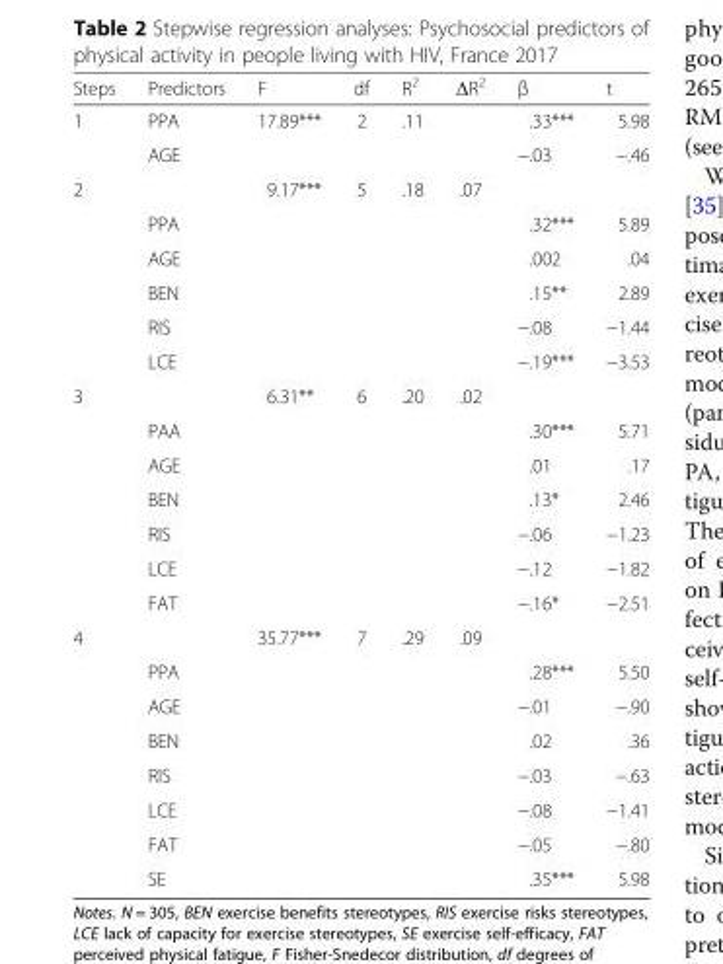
<table><thead><tr><td>Steps</td><td>Predictors</td><td>F</td><td>df</td><td>R<sup>2</sup></td><td>ΔR<sup>2</sup></td><td>β</td><td>t</td></tr></thead><tbody><tr><td rowspan="2">1</td><td>PPA</td><td rowspan="2">17.89***</td><td rowspan="2">2</td><td rowspan="2">.11</td><td rowspan="2"></td><td>.33***</td><td>5.98</td></tr><tr><td>AGE</td><td>−.03</td><td>−.46</td></tr><tr><td rowspan="6">2</td><td></td><td>9.17***</td><td>5</td><td>.18</td><td>.07</td><td></td><td></td></tr><tr><td>PPA</td><td></td><td></td><td></td><td></td><td>.32***</td><td>5.89</td></tr><tr><td>AGE</td><td></td><td></td><td></td><td></td><td>.002</td><td>.04</td></tr><tr><td>BEN</td><td></td><td></td><td></td><td></td><td>.15**</td><td>2.89</td></tr><tr><td>RIS</td><td></td><td></td><td></td><td></td><td>−.08</td><td>−1.44</td></tr><tr><td>LCE</td><td></td><td></td><td></td><td></td><td>−.19***</td><td>−3.53</td></tr><tr><td rowspan="7">3</td><td></td><td>6.31**</td><td>6</td><td>.20</td><td>.02</td><td></td><td></td></tr><tr><td>PAA</td><td></td><td></td><td></td><td></td><td>.30***</td><td>5.71</td></tr><tr><td>AGE</td><td></td><td></td><td></td><td></td><td>.01</td><td>.17</td></tr><tr><td>BEN</td><td></td><td></td><td></td><td></td><td>.13*</td><td>2.46</td></tr><tr><td>RIS</td><td></td><td></td><td></td><td></td><td>−.06</td><td>−1.23</td></tr><tr><td>LCE</td><td></td><td></td><td></td><td></td><td>−.12</td><td>−1.82</td></tr><tr><td>FAT</td><td></td><td></td><td></td><td></td><td>−.16*</td><td>−2.51</td></tr><tr><td rowspan="8">4</td><td></td><td>35.77***</td><td>7</td><td>.29</td><td>.09</td><td></td><td></td></tr><tr><td>PPA</td><td></td><td></td><td></td><td></td><td>.28***</td><td>5.50</td></tr><tr><td>AGE</td><td></td><td></td><td></td><td></td><td>−.01</td><td>−.90</td></tr><tr><td>BEN</td><td></td><td></td><td></td><td></td><td>.02</td><td>.36</td></tr><tr><td>RIS</td><td></td><td></td><td></td><td></td><td>−.03</td><td>−.63</td></tr><tr><td>LCE</td><td></td><td></td><td></td><td></td><td>−.08</td><td>−1.41</td></tr><tr><td>FAT</td><td></td><td></td><td></td><td></td><td>−.05</td><td>−.80</td></tr><tr><td>SE</td><td></td><td></td><td></td><td></td><td>.35***</td><td>5.98</td></tr></tbody></table>